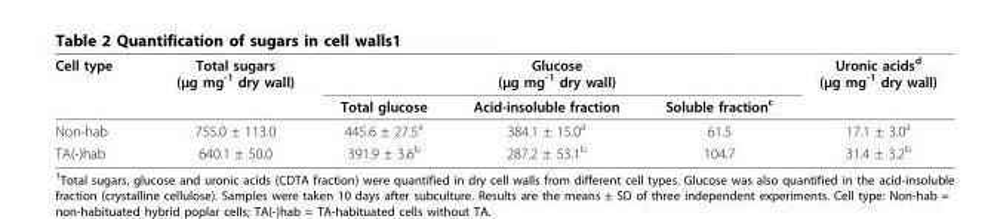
<table><thead><tr><td rowspan="2">Cell type</td><td rowspan="2">Total sugars (μg mg<sup>-1</sup> dry wall)</td><td colspan="3">Glucose (μg mg<sup>-1</sup> dry wall)</td><td rowspan="2">Uronic acids<sup>d</sup> (μg mg<sup>-1</sup> dry wall)</td></tr><tr><td>Total glucose</td><td>Acid-insoluble fraction</td><td>Soluble fraction<sup>c</sup></td></tr></thead><tbody><tr><td>Non-hab</td><td>755.0 ± 113.0</td><td>445.6 ± 27.5<sup>a</sup></td><td>384.1 ± 15.0<sup>a</sup></td><td>61.5</td><td>17.1 ± 3.0<sup>a</sup></td></tr><tr><td>TA(-)hab</td><td>640.1 ± 50.0</td><td>391.9 ± 3.6<sup>b</sup></td><td>287.2 ± 53.1<sup>b</sup></td><td>104.7</td><td>31.4 ± 3.2<sup>b</sup></td></tr></tbody></table>